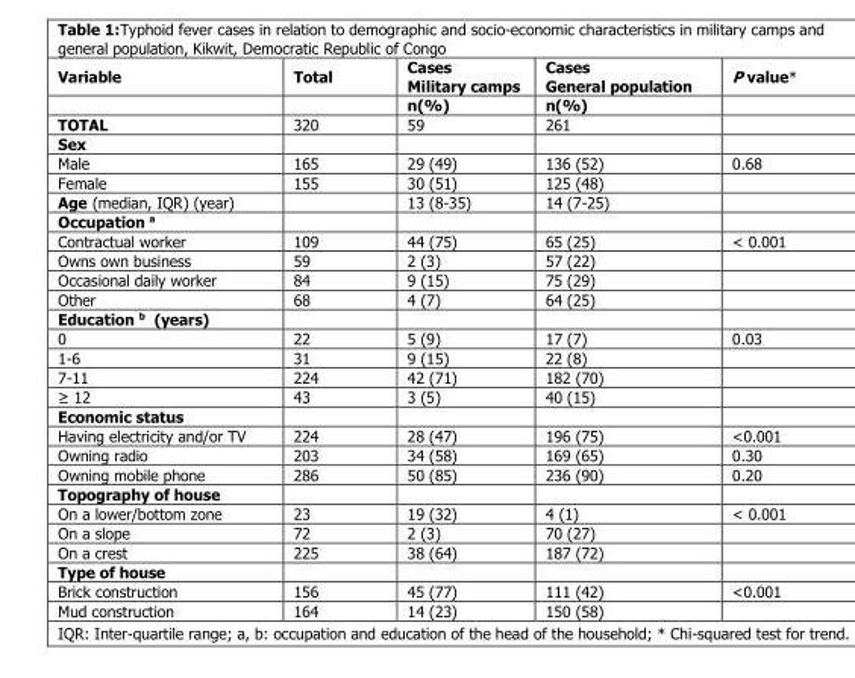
<table><thead><tr><td>Variable</td><td>Total</td><td>Cases Military camps</td><td>Cases General population</td><td>P value*</td></tr></thead><tbody><tr><td></td><td></td><td>n(%)</td><td>n(%)</td><td></td></tr><tr><td>TOTAL</td><td>320</td><td>59</td><td>261</td><td></td></tr><tr><td colspan="5">Sex</td></tr><tr><td>Male</td><td>165</td><td>29 (49)</td><td>136 (52)</td><td>0.68</td></tr><tr><td>Female</td><td>155</td><td>30 (51)</td><td>125 (48)</td><td></td></tr><tr><td>Age (median, IQR) (year)</td><td></td><td>13 (8-35)</td><td>14 (7-25)</td><td></td></tr><tr><td colspan="5">Occupation <sup>a</sup></td></tr><tr><td>Contractual worker</td><td>109</td><td>44 (75)</td><td>65 (25)</td><td>&lt; 0.001</td></tr><tr><td>Owns own business</td><td>59</td><td>2 (3)</td><td>57 (22)</td><td></td></tr><tr><td>Occasional daily worker</td><td>84</td><td>9 (15)</td><td>75 (29)</td><td></td></tr><tr><td>Other</td><td>68</td><td>4 (7)</td><td>64 (25)</td><td></td></tr><tr><td colspan="5">Education <sup>b</sup> (years)</td></tr><tr><td>0</td><td>22</td><td>5 (9)</td><td>17 (7)</td><td>0.03</td></tr><tr><td>1-6</td><td>31</td><td>9 (15)</td><td>22 (8)</td><td></td></tr><tr><td>7-11</td><td>224</td><td>42 (71)</td><td>182 (70)</td><td></td></tr><tr><td>≥ 12</td><td>43</td><td>3 (5)</td><td>40 (15)</td><td></td></tr><tr><td colspan="5">Economic status</td></tr><tr><td>Having electricity and/or TV</td><td>224</td><td>28 (47)</td><td>196 (75)</td><td>&lt;0.001</td></tr><tr><td>Owning radio</td><td>203</td><td>34 (58)</td><td>169 (65)</td><td>0.30</td></tr><tr><td>Owning mobile phone</td><td>286</td><td>50 (85)</td><td>236 (90)</td><td>0.20</td></tr><tr><td colspan="5">Topography of house</td></tr><tr><td>On a lower/bottom zone</td><td>23</td><td>19 (32)</td><td>4 (1)</td><td>&lt; 0.001</td></tr><tr><td>On a slope</td><td>72</td><td>2 (3)</td><td>70 (27)</td><td></td></tr><tr><td>On a crest</td><td>225</td><td>38 (64)</td><td>187 (72)</td><td></td></tr><tr><td colspan="5">Type of house</td></tr><tr><td>Brick construction</td><td>156</td><td>45 (77)</td><td>111 (42)</td><td>&lt;0.001</td></tr><tr><td>Mud construction</td><td>164</td><td>14 (23)</td><td>150 (58)</td><td></td></tr></tbody></table>